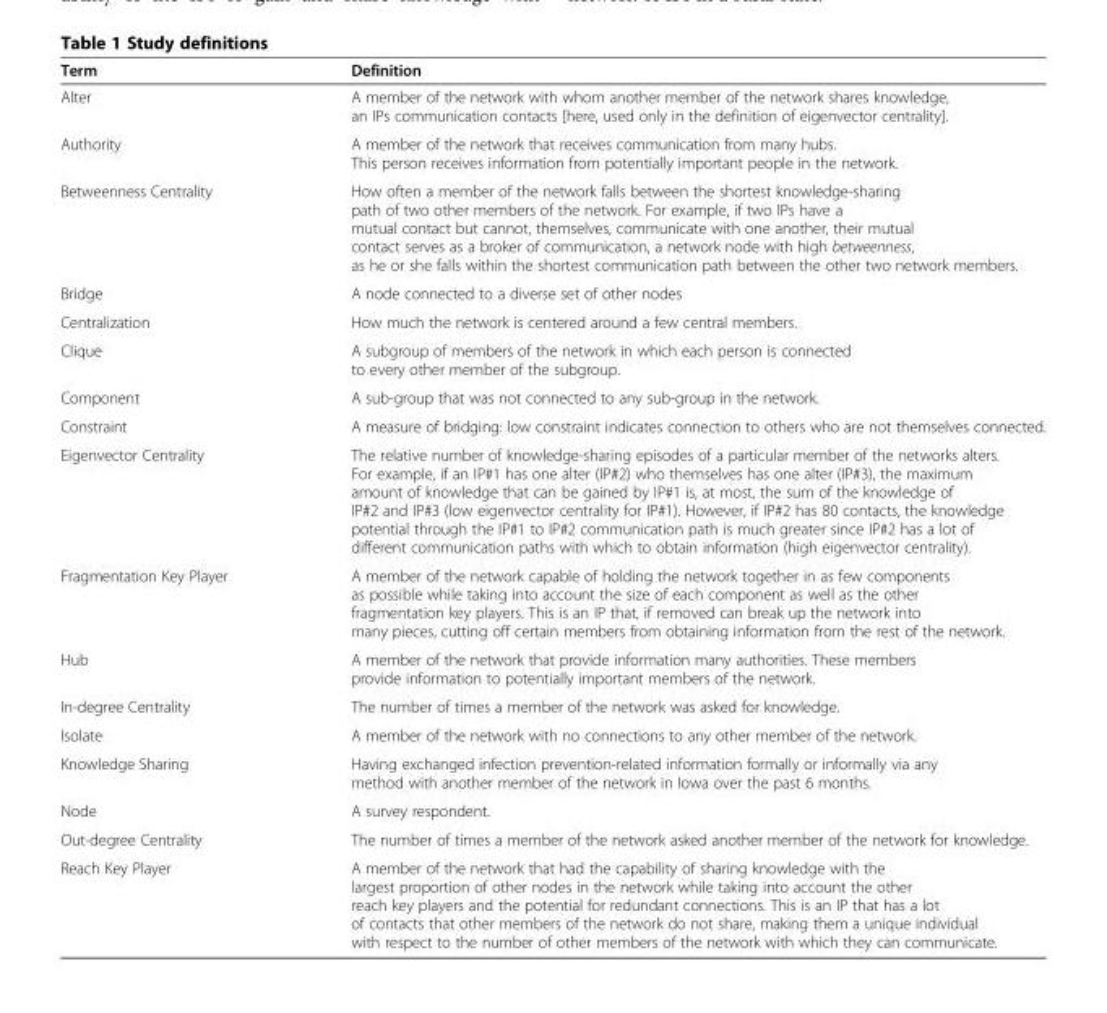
<table><thead><tr><td>Term</td><td>Definition</td></tr></thead><tbody><tr><td>Alter</td><td>A member of the network with whom another member of the network shares knowledge, an IPs communication contacts [here, used only in the definition of eigenvector centrality].</td></tr><tr><td>Authority</td><td>A member of the network that receives communication from many hubs. This person receives information from potentially important people in the network.</td></tr><tr><td>Betweenness Centrality</td><td>How often a member of the network falls between the shortest knowledge-sharing path of two other members of the network. For example, if two IPs have a mutual contact but cannot, themselves, communicate with one another, their mutual contact serves as a broker of communication, a network node with high betweenness, as he or she falls within the shortest communication path between the other two network members.</td></tr><tr><td>Bridge</td><td>A node connected to a diverse set of other nodes</td></tr><tr><td>Centralization</td><td>How much the network is centered around a few central members.</td></tr><tr><td>Clique</td><td>A subgroup of members of the network in which each person is connected to every other member of the subgroup.</td></tr><tr><td>Component</td><td>A sub-group that was not connected to any sub-group in the network.</td></tr><tr><td>Constraint</td><td>A measure of bridging: low constraint indicates connection to others who are not themselves connected.</td></tr><tr><td>Eigenvector Centrality</td><td>The relative number of knowledge-sharing episodes of a particular member of the networks alters. For example, if an IP#1 has one alter (IP#2) who themselves has one alter (IP#3), the maximum amount of knowledge that can be gained by IP#1 is, at most, the sum of the knowledge of IP#2 and IP#3 (low eigenvector centrality for IP#1). However, if IP#2 has 80 contacts, the knowledge potential through the IP#1 to IP#2 communication path is much greater since IP#2 has a lot of different communication paths with which to obtain information (high eigenvector centrality).</td></tr><tr><td>Fragmentation Key Player</td><td>A member of the network capable of holding the network together in as few components as possible while taking into account the size of each component as well as the other fragmentation key players. This is an IP that, if removed can break up the network into many pieces, cutting off certain members from obtaining information from the rest of the network.</td></tr><tr><td>Hub</td><td>A member of the network that provide information many authorities. These members provide information to potentially important members of the network.</td></tr><tr><td>In-degree Centrality</td><td>The number of times a member of the network was asked for knowledge.</td></tr><tr><td>Isolate</td><td>A member of the network with no connections to any other member of the network.</td></tr><tr><td>Knowledge Sharing</td><td>Having exchanged infection prevention-related information formally or informally via any method with another member of the network in Iowa over the past 6 months.</td></tr><tr><td>Node</td><td>A survey respondent.</td></tr><tr><td>Out-degree Centrality</td><td>The number of times a member of the network asked another member of the network for knowledge.</td></tr><tr><td>Reach Key Player</td><td>A member of the network that had the capability of sharing knowledge with the largest proportion of other nodes in the network while taking into account the other reach key players and the potential for redundant connections. This is an IP that has a lot of contacts that other members of the network do not share, making them a unique individual with respect to the number of other members of the network with which they can communicate.</td></tr></tbody></table>